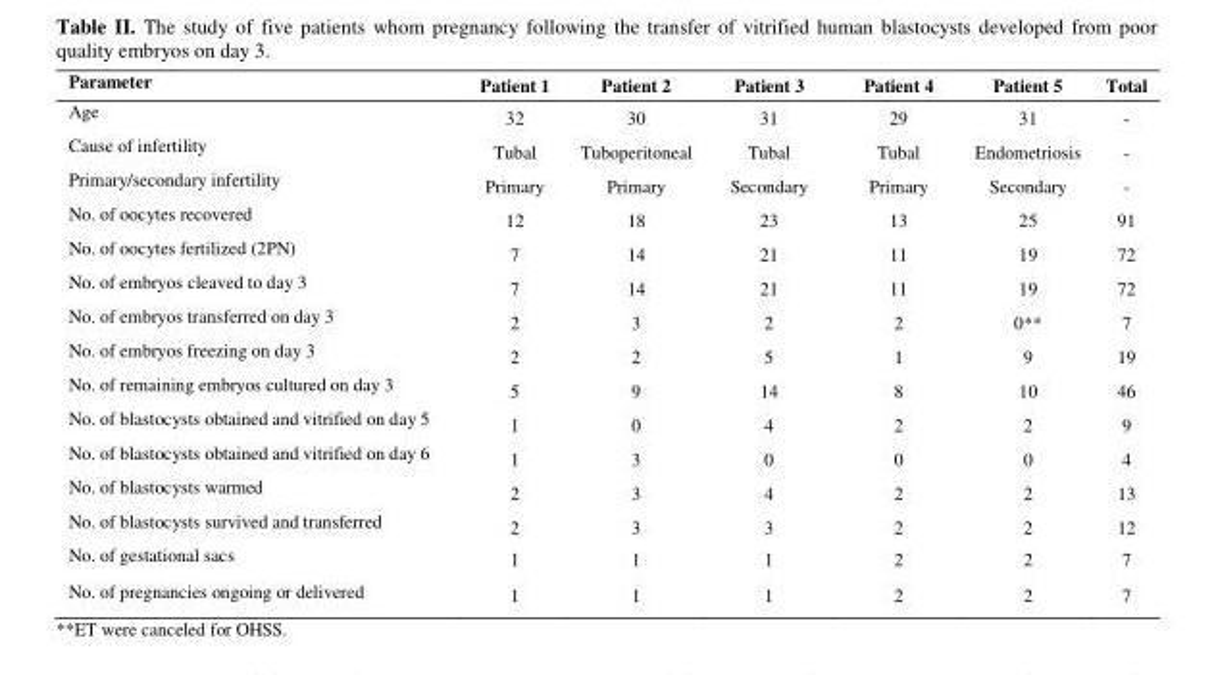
<table><thead><tr><td>Parameter</td><td>Patient 1</td><td>Patient 2</td><td>Patient 3</td><td>Patient 4</td><td>Patient 5</td><td>Total</td></tr></thead><tbody><tr><td>Age</td><td>32</td><td>30</td><td>31</td><td>29</td><td>31</td><td>-</td></tr><tr><td>Cause of infertility</td><td>Tubal</td><td>Tuboperitoneal</td><td>Tubal</td><td>Tubal</td><td>Endometriosis</td><td>-</td></tr><tr><td>Primary/secondary infertility</td><td>Primary</td><td>Primary</td><td>Secondary</td><td>Primary</td><td>Secondary</td><td>-</td></tr><tr><td>No. of oocytes recovered</td><td>12</td><td>18</td><td>23</td><td>13</td><td>25</td><td>91</td></tr><tr><td>No. of oocytes fertilized (2PN)</td><td>7</td><td>14</td><td>21</td><td>11</td><td>19</td><td>72</td></tr><tr><td>No. of embryos cleaved to day 3</td><td>7</td><td>14</td><td>21</td><td>11</td><td>19</td><td>72</td></tr><tr><td>No. of embryos transferred on day 3</td><td>2</td><td>3</td><td>2</td><td>2</td><td>0**</td><td>7</td></tr><tr><td>No. of embryos freezing on day 3</td><td>2</td><td>2</td><td>5</td><td>1</td><td>9</td><td>19</td></tr><tr><td>No. of remaining embryos cultured on day 3</td><td>5</td><td>9</td><td>14</td><td>8</td><td>10</td><td>46</td></tr><tr><td>No. of blastocysts obtained and vitrified on day 5</td><td>1</td><td>0</td><td>4</td><td>2</td><td>2</td><td>9</td></tr><tr><td>No. of blastocysts obtained and vitrified on day 6</td><td>1</td><td>3</td><td>0</td><td>0</td><td>0</td><td>4</td></tr><tr><td>No. of blastocysts warmed</td><td>2</td><td>3</td><td>4</td><td>2</td><td>2</td><td>13</td></tr><tr><td>No. of blastocysts survived and transferred</td><td>2</td><td>3</td><td>3</td><td>2</td><td>2</td><td>12</td></tr><tr><td>No. of gestational sacs</td><td>1</td><td>1</td><td>1</td><td>2</td><td>2</td><td>7</td></tr><tr><td>No. of pregnancies ongoing or delivered</td><td>1</td><td>1</td><td>1</td><td>2</td><td>2</td><td>7</td></tr></tbody></table>